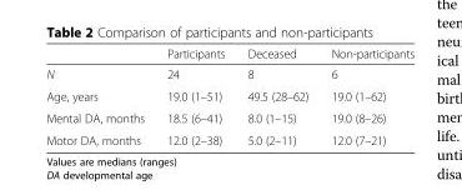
<table><thead><tr><td></td><td>Participants</td><td>Deceased</td><td>Non-participants</td></tr></thead><tbody><tr><td>N</td><td>24</td><td>8</td><td>6</td></tr><tr><td>Age, years</td><td>19.0 (1–51)</td><td>49.5 (28–62)</td><td>19.0 (1–62)</td></tr><tr><td>Mental DA, months</td><td>18.5 (6–41)</td><td>8.0 (1–15)</td><td>19.0 (8–26)</td></tr><tr><td>Motor DA, months</td><td>12.0 (2–38)</td><td>5.0 (2–11)</td><td>12.0 (7–21)</td></tr></tbody></table>